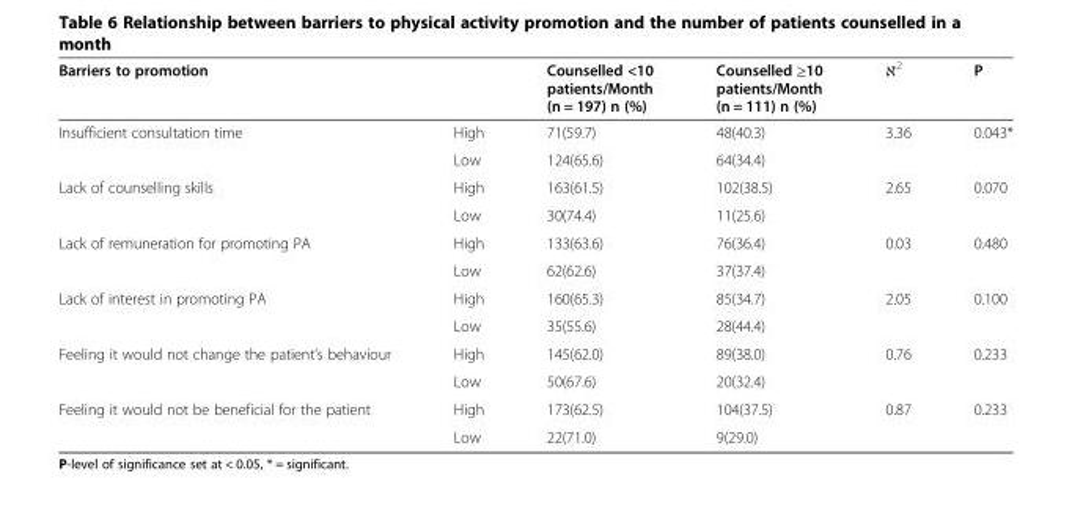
<table><thead><tr><td>Barriers to promotion</td><td></td><td>Counselled &lt;10 patients/Month (n = 197) n (%)</td><td>Counselled ≥10 patients/Month (n = 111) n (%)</td><td>ℵ<sup>2</sup></td><td>P</td></tr></thead><tbody><tr><td rowspan="2">Insufficient consultation time</td><td>High</td><td>71(59.7)</td><td>48(40.3)</td><td>3.36</td><td>0.043*</td></tr><tr><td>Low</td><td>124(65.6)</td><td>64(34.4)</td><td></td><td></td></tr><tr><td rowspan="2">Lack of counselling skills</td><td>High</td><td>163(61.5)</td><td>102(38.5)</td><td>2.65</td><td>0.070</td></tr><tr><td>Low</td><td>30(74.4)</td><td>11(25.6)</td><td></td><td></td></tr><tr><td rowspan="2">Lack of remuneration for promoting PA</td><td>High</td><td>133(63.6)</td><td>76(36.4)</td><td>0.03</td><td>0.480</td></tr><tr><td>Low</td><td>62(62.6)</td><td>37(37.4)</td><td></td><td></td></tr><tr><td rowspan="2">Lack of interest in promoting PA</td><td>High</td><td>160(65.3)</td><td>85(34.7)</td><td>2.05</td><td>0.100</td></tr><tr><td>Low</td><td>35(55.6)</td><td>28(44.4)</td><td></td><td></td></tr><tr><td rowspan="2">Feeling it would not change the patient’s behaviour</td><td>High</td><td>145(62.0)</td><td>89(38.0)</td><td>0.76</td><td>0.233</td></tr><tr><td>Low</td><td>50(67.6)</td><td>20(32.4)</td><td></td><td></td></tr><tr><td rowspan="2">Feeling it would not be beneficial for the patient</td><td>High</td><td>173(62.5)</td><td>104(37.5)</td><td>0.87</td><td>0.233</td></tr><tr><td>Low</td><td>22(71.0)</td><td>9(29.0)</td><td></td><td></td></tr></tbody></table>